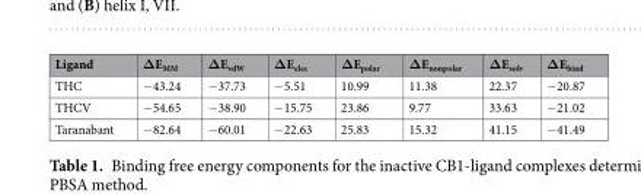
<table><thead><tr><td>Ligand</td><td>ΔE<sub>MM</sub></td><td>ΔE<sub>vdW</sub></td><td>ΔE<sub>elec</sub></td><td>ΔE<sub>polar</sub></td><td>ΔE<sub>nonpolar</sub></td><td>ΔE<sub>solv</sub></td><td>ΔE<sub>bind</sub></td></tr></thead><tbody><tr><td>THC</td><td>−43.24</td><td>−37.73</td><td>−5.51</td><td>10.99</td><td>11.38</td><td>22.37</td><td>−20.87</td></tr><tr><td>THCV</td><td>−54.65</td><td>−38.90</td><td>−15.75</td><td>23.86</td><td>9.77</td><td>33.63</td><td>−21.02</td></tr><tr><td>Taranabant</td><td>−82.64</td><td>−60.01</td><td>−22.63</td><td>25.83</td><td>15.32</td><td>41.15</td><td>−41.49</td></tr></tbody></table>